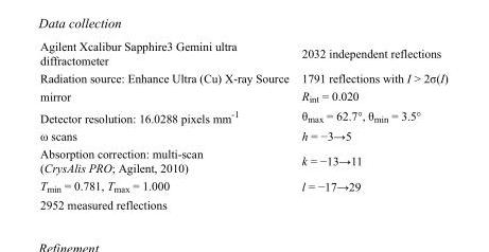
<table><tbody><tr><td>Agilent Xcalibur Sapphire3 Gemini ultra diffractometer</td><td>2032 independent reflections</td></tr><tr><td>Radiation source: Enhance Ultra (Cu) X-ray Source</td><td>1791 reflections with I &gt; 2σ(I)</td></tr><tr><td>mirror</td><td>R<sub>int</sub> = 0.020</td></tr><tr><td>Detector resolution: 16.0288 pixels mm<sup>-1</sup></td><td>θ<sub>max</sub> = 62.7°, θ<sub>min</sub> = 3.5°</td></tr><tr><td>ω scans</td><td>h = −3→5</td></tr><tr><td>Absorption correction: multi-scan (CrysAlis PRO; Agilent, 2010)</td><td>k = −13→11</td></tr><tr><td>T<sub>min</sub> = 0.781, T<sub>max</sub> = 1.000</td><td>l = −17→29</td></tr><tr><td>2952 measured reflections</td><td></td></tr></tbody></table>